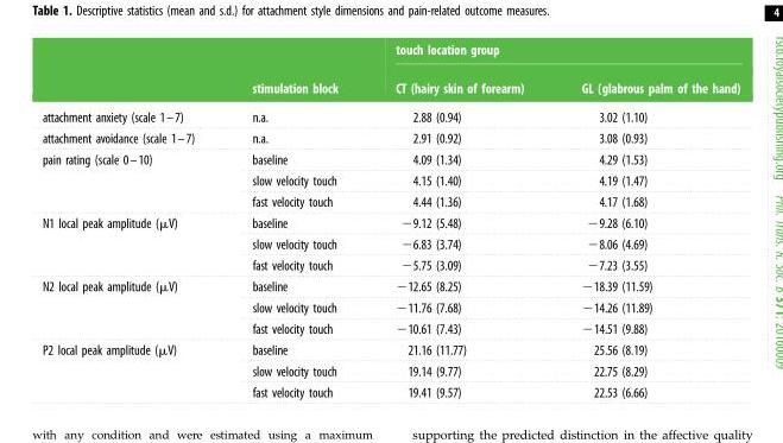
<table><thead><tr><td rowspan="2"></td><td rowspan="2">stimulation block</td><td colspan="2">touch location group</td></tr><tr><td>CT (hairy skin of forearm)</td><td>GL (glabrous palm of the hand)</td></tr></thead><tbody><tr><td>attachment anxiety (scale 1–7)</td><td>n.a.</td><td>2.88 (0.94)</td><td>3.02 (1.10)</td></tr><tr><td>attachment avoidance (scale 1–7)</td><td>n.a.</td><td>2.91 (0.92)</td><td>3.08 (0.93)</td></tr><tr><td rowspan="3">pain rating (scale 0–10)</td><td>baseline</td><td>4.09 (1.34)</td><td>4.29 (1.53)</td></tr><tr><td>slow velocity touch</td><td>4.15 (1.40)</td><td>4.19 (1.47)</td></tr><tr><td>fast velocity touch</td><td>4.44 (1.36)</td><td>4.17 (1.68)</td></tr><tr><td rowspan="3">N1 local peak amplitude (µV)</td><td>baseline</td><td>−9.12 (5.48)</td><td>−9.28 (6.10)</td></tr><tr><td>slow velocity touch</td><td>−6.83 (3.74)</td><td>−8.06 (4.69)</td></tr><tr><td>fast velocity touch</td><td>−5.75 (3.09)</td><td>−7.23 (3.55)</td></tr><tr><td rowspan="3">N2 local peak amplitude (µV)</td><td>baseline</td><td>−12.65 (8.25)</td><td>−18.39 (11.59)</td></tr><tr><td>slow velocity touch</td><td>−11.76 (7.68)</td><td>−14.26 (11.89)</td></tr><tr><td>fast velocity touch</td><td>−10.61 (7.43)</td><td>−14.51 (9.88)</td></tr><tr><td rowspan="3">P2 local peak amplitude (µV)</td><td>baseline</td><td>21.16 (11.77)</td><td>25.56 (8.19)</td></tr><tr><td>slow velocity touch</td><td>19.14 (9.77)</td><td>22.75 (8.29)</td></tr><tr><td>fast velocity touch</td><td>19.41 (9.57)</td><td>22.53 (6.66)</td></tr></tbody></table>